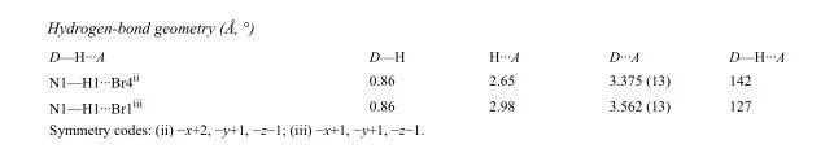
<table><tbody><tr><td>D—H···A</td><td>D—H</td><td>H···A</td><td>D···A</td><td>D—H···A</td></tr><tr><td>N1—H1···Br4<sup>ii</sup></td><td>0.86</td><td>2.65</td><td>3.375 (13)</td><td>142</td></tr><tr><td>N1—H1···Br1<sup>iii</sup></td><td>0.86</td><td>2.98</td><td>3.562 (13)</td><td>127</td></tr></tbody></table>